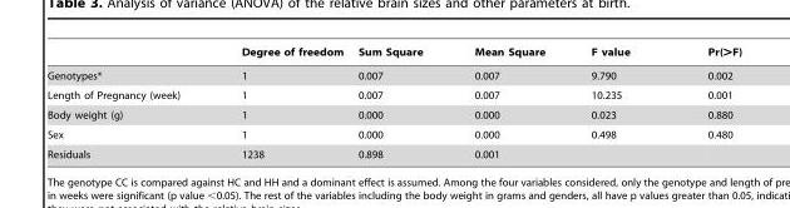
<table><thead><tr><td></td><td>Degree of freedom</td><td>Sum Square</td><td>Mean Square</td><td>F value</td><td>Pr(&gt;F)</td></tr></thead><tbody><tr><td>Genotypes*</td><td>1</td><td>0.007</td><td>0.007</td><td>9.790</td><td>0.002</td></tr><tr><td>Length of Pregnancy (week)</td><td>1</td><td>0.007</td><td>0.007</td><td>10.235</td><td>0.001</td></tr><tr><td>Body weight (g)</td><td>1</td><td>0.000</td><td>0.000</td><td>0.023</td><td>0.880</td></tr><tr><td>Sex</td><td>1</td><td>0.000</td><td>0.000</td><td>0.498</td><td>0.480</td></tr><tr><td>Residuals</td><td>1238</td><td>0.898</td><td>0.001</td><td></td><td></td></tr></tbody></table>